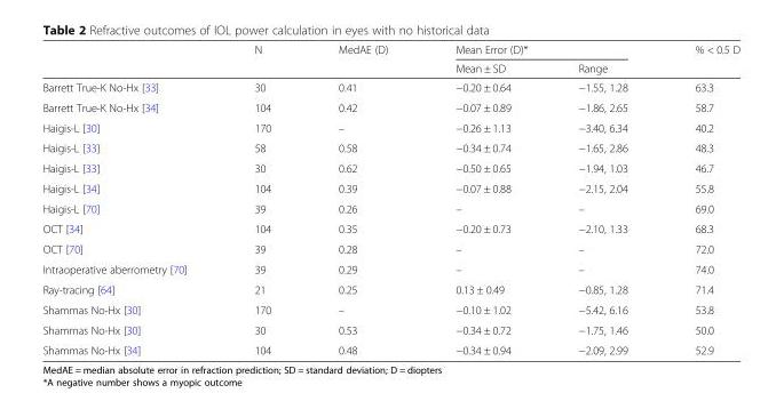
<table><thead><tr><td rowspan="2"></td><td rowspan="2">N</td><td rowspan="2">MedAE (D)</td><td colspan="2">Mean Error (D)*</td><td rowspan="2">% &lt; 0.5 D</td></tr><tr><td>Mean ± SD</td><td>Range</td></tr></thead><tbody><tr><td>Barrett True-K No-Hx [33]</td><td>30</td><td>0.41</td><td>−0.20 ± 0.64</td><td>−1.55, 1.28</td><td>63.3</td></tr><tr><td>Barrett True-K No-Hx [34]</td><td>104</td><td>0.42</td><td>−0.07 ± 0.89</td><td>−1.86, 2.65</td><td>58.7</td></tr><tr><td>Haigis-L [30]</td><td>170</td><td>–</td><td>−0.26 ± 1.13</td><td>−3.40, 6.34</td><td>40.2</td></tr><tr><td>Haigis-L [33]</td><td>58</td><td>0.58</td><td>−0.34 ± 0.74</td><td>−1.65, 2.86</td><td>48.3</td></tr><tr><td>Haigis-L [33]</td><td>30</td><td>0.62</td><td>−0.50 ± 0.65</td><td>−1.94, 1.03</td><td>46.7</td></tr><tr><td>Haigis-L [34]</td><td>104</td><td>0.39</td><td>−0.07 ± 0.88</td><td>−2.15, 2.04</td><td>55.8</td></tr><tr><td>Haigis-L [70]</td><td>39</td><td>0.26</td><td>–</td><td>–</td><td>69.0</td></tr><tr><td>OCT [34]</td><td>104</td><td>0.35</td><td>−0.20 ± 0.73</td><td>−2.10, 1.33</td><td>68.3</td></tr><tr><td>OCT [70]</td><td>39</td><td>0.28</td><td>–</td><td>–</td><td>72.0</td></tr><tr><td>Intraoperative aberrometry [70]</td><td>39</td><td>0.29</td><td>–</td><td>–</td><td>74.0</td></tr><tr><td>Ray-tracing [64]</td><td>21</td><td>0.25</td><td>0.13 ± 0.49</td><td>−0.85, 1.28</td><td>71.4</td></tr><tr><td>Shammas No-Hx [30]</td><td>170</td><td>–</td><td>−0.10 ± 1.02</td><td>−5.42, 6.16</td><td>53.8</td></tr><tr><td>Shammas No-Hx [30]</td><td>30</td><td>0.53</td><td>−0.34 ± 0.72</td><td>−1.75, 1.46</td><td>50.0</td></tr><tr><td>Shammas No-Hx [34]</td><td>104</td><td>0.48</td><td>−0.34 ± 0.94</td><td>−2.09, 2.99</td><td>52.9</td></tr></tbody></table>